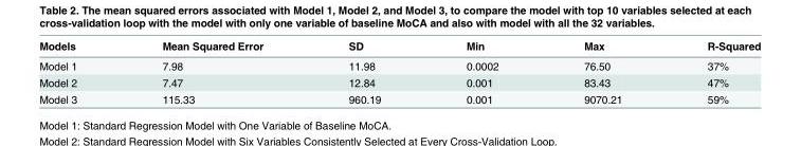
<table><thead><tr><td>Models</td><td>Mean Squared Error</td><td>SD</td><td>Min</td><td>Max</td><td>R-Squared</td></tr></thead><tbody><tr><td>Model 1</td><td>7.98</td><td>11.98</td><td>0.0002</td><td>76.50</td><td>37%</td></tr><tr><td>Model 2</td><td>7.47</td><td>12.84</td><td>0.001</td><td>83.43</td><td>47%</td></tr><tr><td>Model 3</td><td>115.33</td><td>960.19</td><td>0.001</td><td>9070.21</td><td>59%</td></tr></tbody></table>